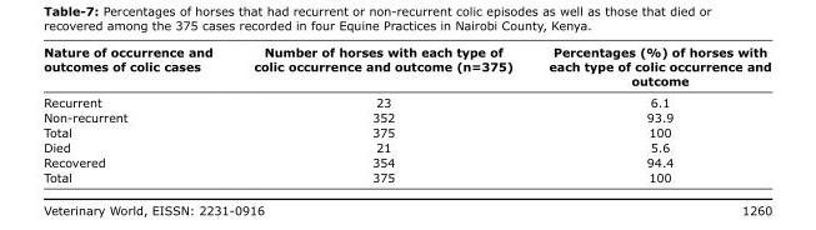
<table><thead><tr><td>Nature of occurrence and outcomes of colic cases</td><td>Number of horses with each type of colic occurrence and outcome (n=375)</td><td>Percentages (%) of horses with each type of colic occurrence and outcome</td></tr></thead><tbody><tr><td>Recurrent</td><td>23</td><td>6.1</td></tr><tr><td>Non-recurrent</td><td>352</td><td>93.9</td></tr><tr><td>Total</td><td>375</td><td>100</td></tr><tr><td>Died</td><td>21</td><td>5.6</td></tr><tr><td>Recovered</td><td>354</td><td>94.4</td></tr><tr><td>Total</td><td>375</td><td>100</td></tr></tbody></table>